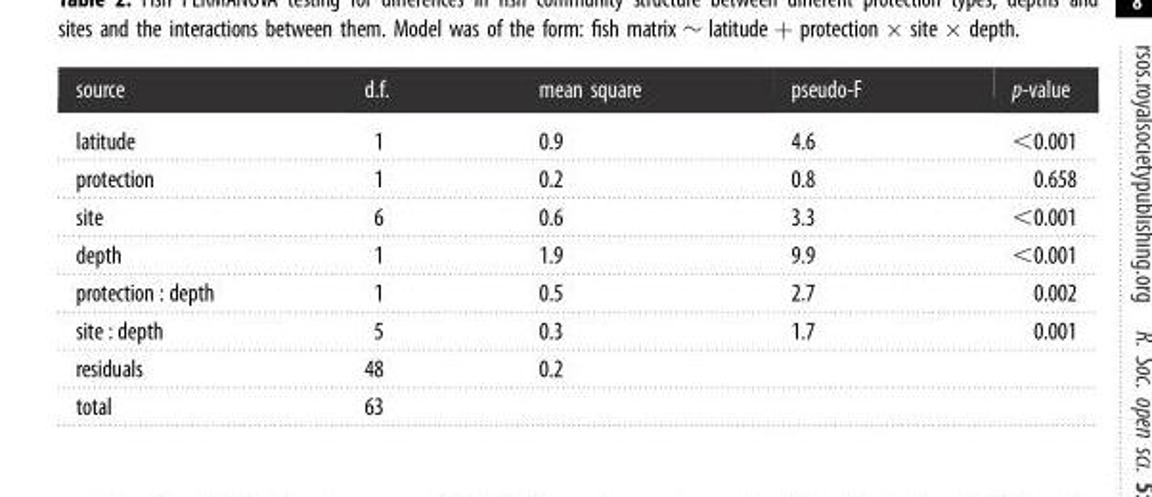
<table><thead><tr><td>source</td><td>d.f.</td><td>mean square</td><td>pseudo-F</td><td>p-value</td></tr></thead><tbody><tr><td>latitude</td><td>1</td><td>0.9</td><td>4.6</td><td>&lt;0.001</td></tr><tr><td>protection</td><td>1</td><td>0.2</td><td>0.8</td><td>0.658</td></tr><tr><td>site</td><td>6</td><td>0.6</td><td>3.3</td><td>&lt;0.001</td></tr><tr><td>depth</td><td>1</td><td>1.9</td><td>9.9</td><td>&lt;0.001</td></tr><tr><td>protection : depth</td><td>1</td><td>0.5</td><td>2.7</td><td>0.002</td></tr><tr><td>site : depth</td><td>5</td><td>0.3</td><td>1.7</td><td>0.001</td></tr><tr><td>residuals</td><td>48</td><td>0.2</td><td></td><td></td></tr><tr><td>total</td><td>63</td><td></td><td></td><td></td></tr></tbody></table>